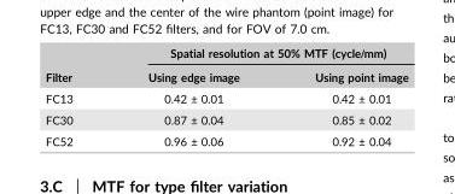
<table><thead><tr><td rowspan="2">Filter</td><td colspan="2">Spatial resolution at 50% MTF (cycle/mm)</td></tr><tr><td>Using edge image</td><td>Using point image</td></tr></thead><tbody><tr><td>FC13</td><td>0.42 ± 0.01</td><td>0.42 ± 0.01</td></tr><tr><td>FC30</td><td>0.87 ± 0.04</td><td>0.85 ± 0.02</td></tr><tr><td>FC52</td><td>0.96 ± 0.06</td><td>0.92 ± 0.04</td></tr></tbody></table>